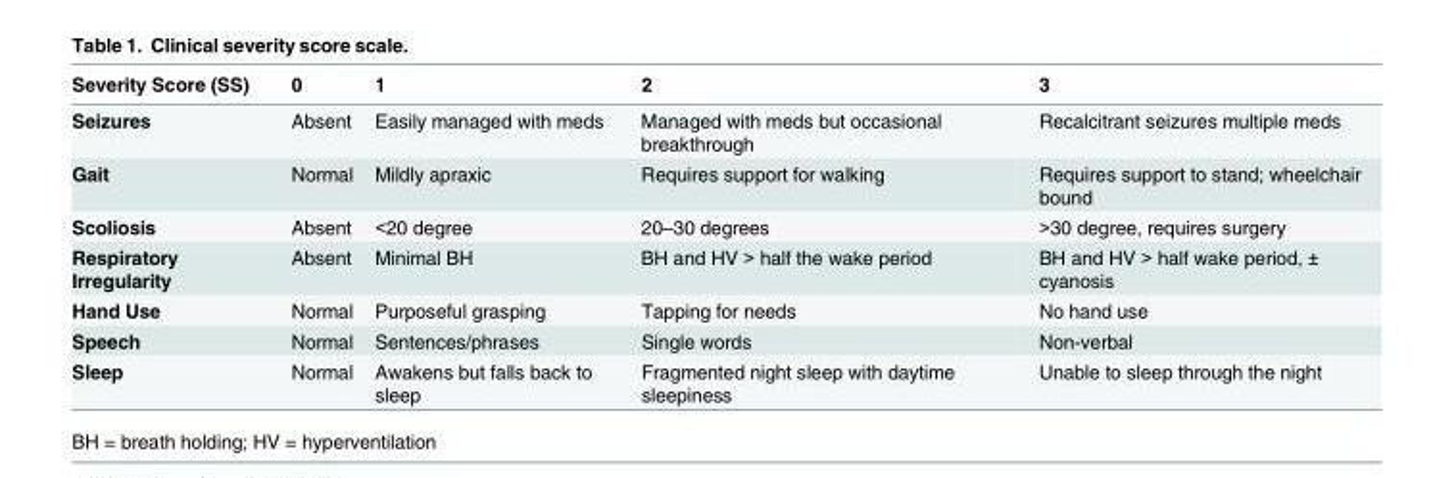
<table><thead><tr><td>Severity Score (SS)</td><td>0</td><td>1</td><td>2</td><td>3</td></tr></thead><tbody><tr><td>Seizures</td><td>Absent</td><td>Easily managed with meds</td><td>Managed with meds but occasional breakthrough</td><td>Recalcitrant seizures multiple meds</td></tr><tr><td>Gait</td><td>Normal</td><td>Mildly apraxic</td><td>Requires support for walking</td><td>Requires support to stand; wheelchair bound</td></tr><tr><td>Scoliosis</td><td>Absent</td><td>&lt;20 degree</td><td>20–30 degrees</td><td>&gt;30 degree, requires surgery</td></tr><tr><td>Respiratory Irregularity</td><td>Absent</td><td>Minimal BH</td><td>BH and HV &gt; half the wake period</td><td>BH and HV &gt; half wake period, ± cyanosis</td></tr><tr><td>Hand Use</td><td>Normal</td><td>Purposeful grasping</td><td>Tapping for needs</td><td>No hand use</td></tr><tr><td>Speech</td><td>Normal</td><td>Sentences/phrases</td><td>Single words</td><td>Non-verbal</td></tr><tr><td>Sleep</td><td>Normal</td><td>Awakens but falls back to sleep</td><td>Fragmented night sleep with daytime sleepiness</td><td>Unable to sleep through the night</td></tr></tbody></table>